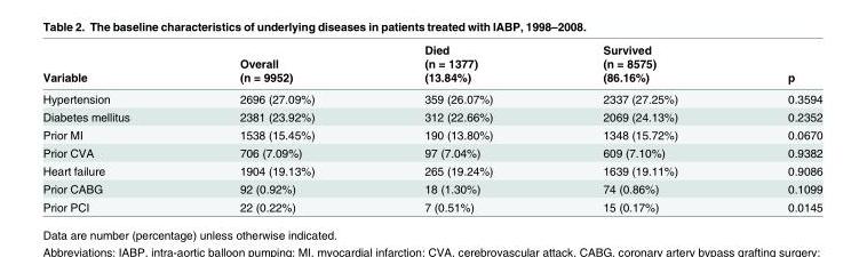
<table><thead><tr><td rowspan="3">Variable</td><td rowspan="3">Overall (n = 9952)</td><td rowspan="3">Died (n = 1377) (13.84%)</td><td rowspan="3">Survived (n = 8575) (86.16%)</td><td rowspan="3">p</td></tr><tr></tr><tr></tr></thead><tbody><tr><td>Hypertension</td><td>2696 (27.09%)</td><td>359 (26.07%)</td><td>2337 (27.25%)</td><td>0.3594</td></tr><tr><td>Diabetes mellitus</td><td>2381 (23.92%)</td><td>312 (22.66%)</td><td>2069 (24.13%)</td><td>0.2352</td></tr><tr><td>Prior MI</td><td>1538 (15.45%)</td><td>190 (13.80%)</td><td>1348 (15.72%)</td><td>0.0670</td></tr><tr><td>Prior CVA</td><td>706 (7.09%)</td><td>97 (7.04%)</td><td>609 (7.10%)</td><td>0.9382</td></tr><tr><td>Heart failure</td><td>1904 (19.13%)</td><td>265 (19.24%)</td><td>1639 (19.11%)</td><td>0.9086</td></tr><tr><td>Prior CABG</td><td>92 (0.92%)</td><td>18 (1.30%)</td><td>74 (0.86%)</td><td>0.1099</td></tr><tr><td>Prior PCI</td><td>22 (0.22%)</td><td>7 (0.51%)</td><td>15 (0.17%)</td><td>0.0145</td></tr></tbody></table>